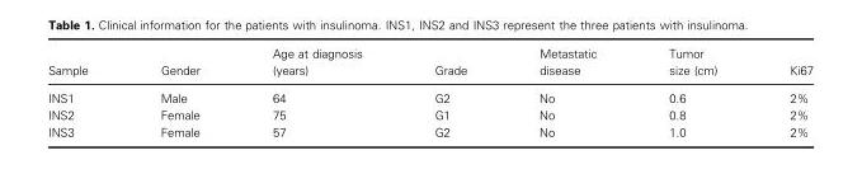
<table><thead><tr><td>Sample</td><td>Gender</td><td>Age at diagnosis (years)</td><td>Grade</td><td>Metastatic disease</td><td>Tumor size (cm)</td><td>Ki67</td></tr></thead><tbody><tr><td>INS1</td><td>Male</td><td>64</td><td>G2</td><td>No</td><td>0.6</td><td>2%</td></tr><tr><td>INS2</td><td>Female</td><td>75</td><td>G1</td><td>No</td><td>0.8</td><td>2%</td></tr><tr><td>INS3</td><td>Female</td><td>57</td><td>G2</td><td>No</td><td>1.0</td><td>2%</td></tr></tbody></table>